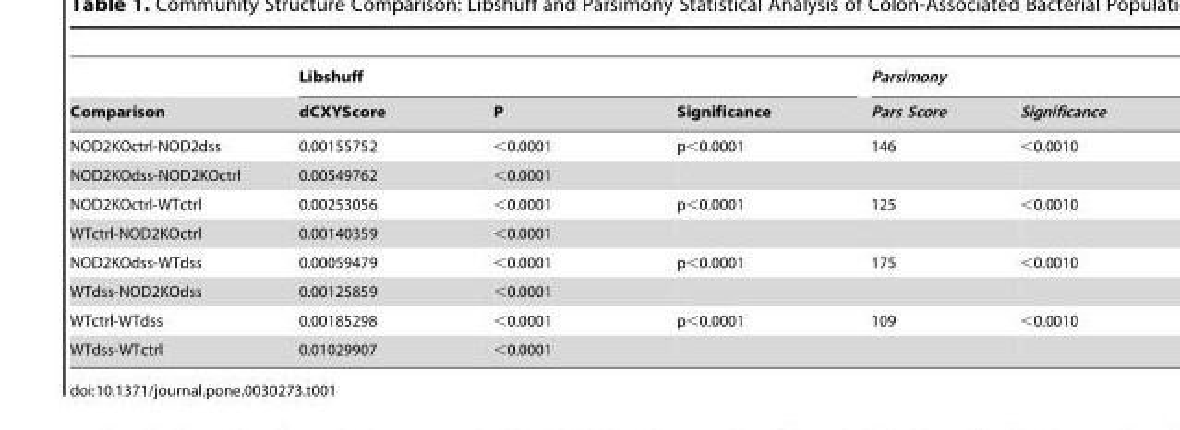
<table><thead><tr><td rowspan="2">Comparison</td><td colspan="3">Libshuff</td><td colspan="2">Parsimony</td></tr><tr><td>dCXYScore</td><td>P</td><td>Significance</td><td>Pars Score</td><td>Significance</td></tr></thead><tbody><tr><td>NOD2KOctrl-NOD2dss</td><td>0.00155752</td><td>&lt;0.0001</td><td>p&lt;0.0001</td><td>146</td><td>&lt;0.0010</td></tr><tr><td>NOD2KOdss-NOD2KOctrl</td><td>0.00549762</td><td>&lt;0.0001</td><td></td><td></td><td></td></tr><tr><td>NOD2KOctrl-WTctrl</td><td>0.00253056</td><td>&lt;0.0001</td><td>p&lt;0.0001</td><td>125</td><td>&lt;0.0010</td></tr><tr><td>WTctrl-NOD2KOctrl</td><td>0.00140359</td><td>&lt;0.0001</td><td></td><td></td><td></td></tr><tr><td>NOD2KOdss-WTdss</td><td>0.00059479</td><td>&lt;0.0001</td><td>p&lt;0.0001</td><td>175</td><td>&lt;0.0010</td></tr><tr><td>WTdss-NOD2KOdss</td><td>0.00125859</td><td>&lt;0.0001</td><td></td><td></td><td></td></tr><tr><td>WTctrl-WTdss</td><td>0.00185298</td><td>&lt;0.0001</td><td>p&lt;0.0001</td><td>109</td><td>&lt;0.0010</td></tr><tr><td>WTdss-WTctrl</td><td>0.01029907</td><td>&lt;0.0001</td><td></td><td></td><td></td></tr></tbody></table>